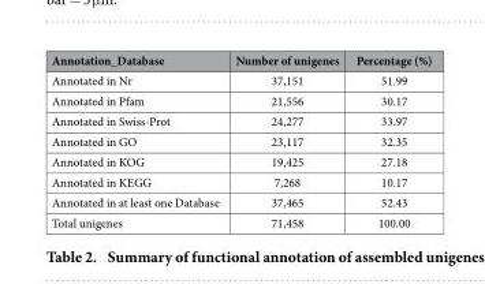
<table><thead><tr><td>Annotation_Database</td><td>Number of unigenes</td><td>Percentage (%)</td></tr></thead><tbody><tr><td>Annotated in Nr</td><td>37,151</td><td>51.99</td></tr><tr><td>Annotated in Pfam</td><td>21,556</td><td>30.17</td></tr><tr><td>Annotated in Swiss-Prot</td><td>24,277</td><td>33.97</td></tr><tr><td>Annotated in GO</td><td>23,117</td><td>32.35</td></tr><tr><td>Annotated in KOG</td><td>19,425</td><td>27.18</td></tr><tr><td>Annotated in KEGG</td><td>7,268</td><td>10.17</td></tr><tr><td>Annotated in at least one Database</td><td>37,465</td><td>52.43</td></tr><tr><td>Total unigenes</td><td>71,458</td><td>100.00</td></tr></tbody></table>